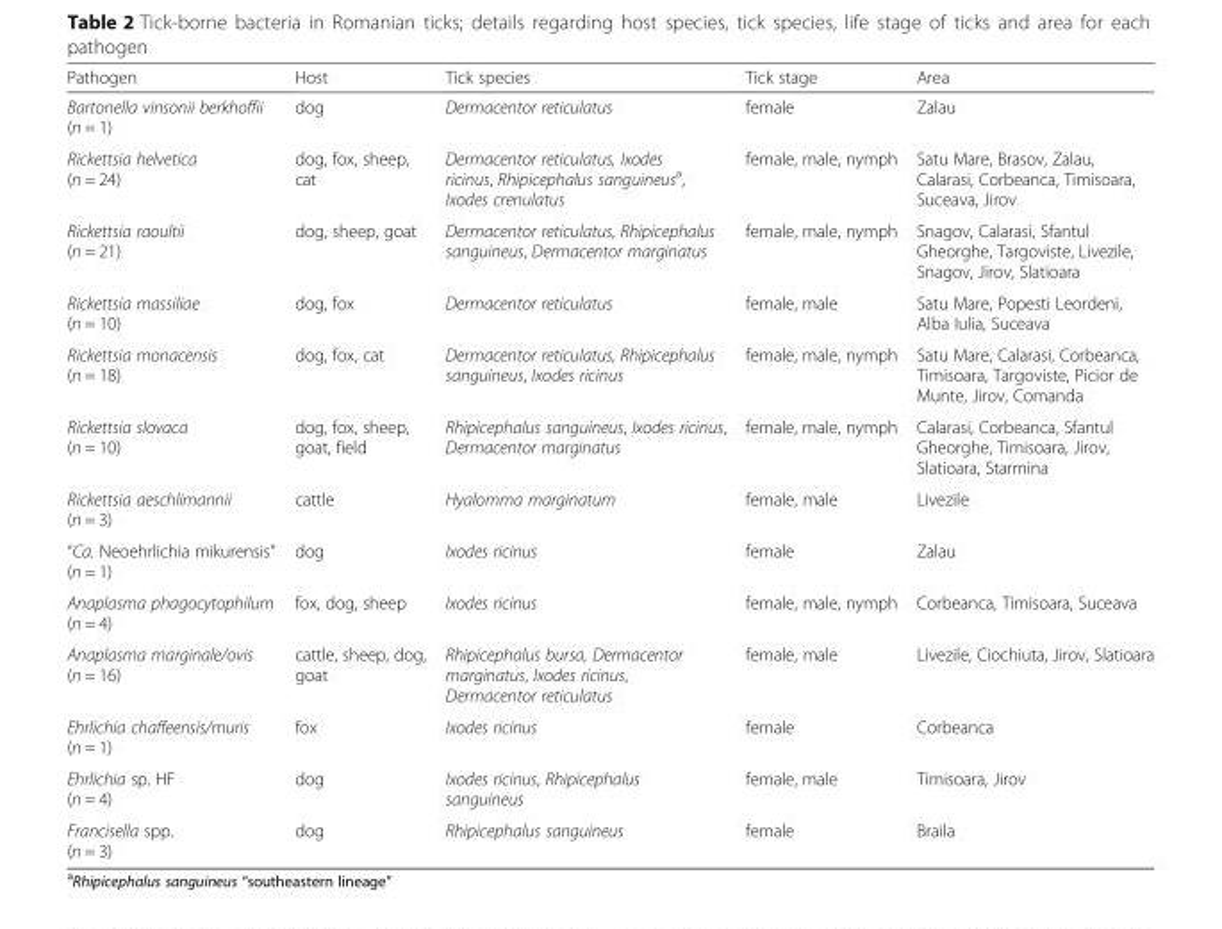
<table><thead><tr><td>Pathogen</td><td>Host</td><td>Tick species</td><td>Tick stage</td><td>Area</td></tr></thead><tbody><tr><td>Bartonella vinsonii berkhoffii (n = 1)</td><td>dog</td><td>Dermacentor reticulatus</td><td>female</td><td>Zalau</td></tr><tr><td>Rickettsia helvetica (n = 24)</td><td>dog, fox, sheep, cat</td><td>Dermacentor reticulatus, Ixodes ricinus, Rhipicephalus sanguineus<sup>a</sup>, Ixodes crenulatus</td><td>female, male, nymph</td><td>Satu Mare, Brasov, Zalau, Calarasi, Corbeanca, Timisoara, Suceava, Jirov</td></tr><tr><td>Rickettsia raoultii (n = 21)</td><td>dog, sheep, goat</td><td>Dermacentor reticulatus, Rhipicephalus sanguineus, Dermacentor marginatus</td><td>female, male, nymph</td><td>Snagov, Calarasi, Sfantul Gheorghe, Targoviste, Livezile, Snagov, Jirov, Slatioara</td></tr><tr><td>Rickettsia massiliae (n = 10)</td><td>dog, fox</td><td>Dermacentor reticulatus</td><td>female, male</td><td>Satu Mare, Popesti Leordeni, Alba Iulia, Suceava</td></tr><tr><td>Rickettsia monacensis (n = 18)</td><td>dog, fox, cat</td><td>Dermacentor reticulatus, Rhipicephalus sanguineus, Ixodes ricinus</td><td>female, male, nymph</td><td>Satu Mare, Calarasi, Corbeanca, Timisoara, Targoviste, Picior de Munte, Jirov, Comanda</td></tr><tr><td>Rickettsia slovaca (n = 10)</td><td>dog, fox, sheep, goat, field</td><td>Rhipicephalus sanguineus, Ixodes ricinus, Dermacentor marginatus</td><td>female, male, nymph</td><td>Calarasi, Corbeanca, Sfantul Gheorghe, Timisoara, Jirov, Slatioara, Starmina</td></tr><tr><td>Rickettsia aeschlimannii (n = 3)</td><td>cattle</td><td>Hyalomma marginatum</td><td>female, male</td><td>Livezile</td></tr><tr><td>“Ca. Neoehrlichia mikurensis” (n = 1)</td><td>dog</td><td>Ixodes ricinus</td><td>female</td><td>Zalau</td></tr><tr><td>Anaplasma phagocytophilum (n = 4)</td><td>fox, dog, sheep</td><td>Ixodes ricinus</td><td>female, male, nymph</td><td>Corbeanca, Timisoara, Suceava</td></tr><tr><td>Anaplasma marginale/ovis (n = 16)</td><td>cattle, sheep, dog, goat</td><td>Rhipicephalus bursa, Dermacentor marginatus, Ixodes ricinus, Dermacentor reticulatus</td><td>female, male</td><td>Livezile, Ciochiuta, Jirov, Slatioara</td></tr><tr><td>Ehrlichia chaffeensis/muris (n = 1)</td><td>fox</td><td>Ixodes ricinus</td><td>female</td><td>Corbeanca</td></tr><tr><td>Ehrlichia sp. HF (n = 4)</td><td>dog</td><td>Ixodes ricinus, Rhipicephalus sanguineus</td><td>female, male</td><td>Timisoara, Jirov</td></tr><tr><td>Francisella spp. (n = 3)</td><td>dog</td><td>Rhipicephalus sanguineus</td><td>female</td><td>Braila</td></tr></tbody></table>